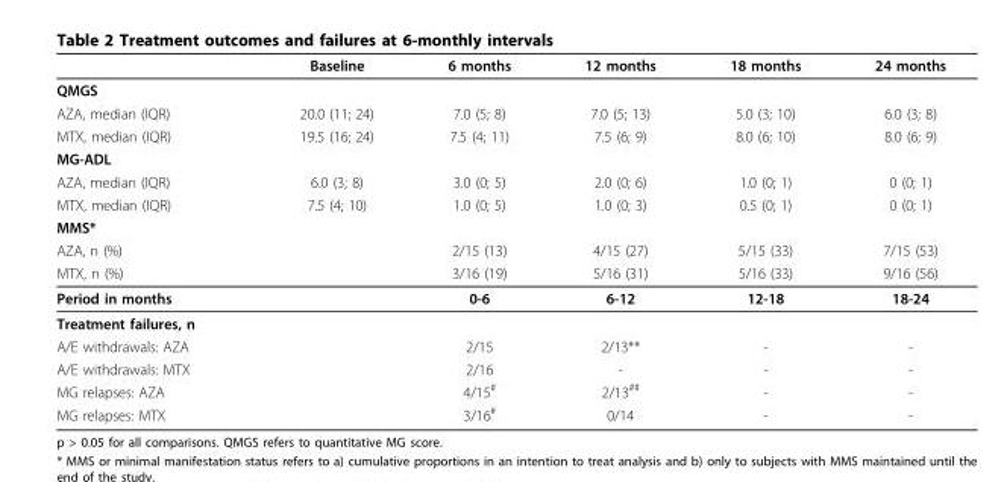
<table><thead><tr><td></td><td>Baseline</td><td>6 months</td><td>12 months</td><td>18 months</td><td>24 months</td></tr></thead><tbody><tr><td colspan="6">QMGS</td></tr><tr><td>AZA, median (IQR)</td><td>20.0 (11; 24)</td><td>7.0 (5; 8)</td><td>7.0 (5; 13)</td><td>5.0 (3; 10)</td><td>6.0 (3; 8)</td></tr><tr><td>MTX, median (IQR)</td><td>19.5 (16; 24)</td><td>7.5 (4; 11)</td><td>7.5 (6; 9)</td><td>8.0 (6; 10)</td><td>8.0 (6; 9)</td></tr><tr><td colspan="6">MG-ADL</td></tr><tr><td>AZA, median (IQR)</td><td>6.0 (3; 8)</td><td>3.0 (0; 5)</td><td>2.0 (0; 6)</td><td>1.0 (0; 1)</td><td>0 (0; 1)</td></tr><tr><td>MTX, median (IQR)</td><td>7.5 (4; 10)</td><td>1.0 (0; 5)</td><td>1.0 (0; 3)</td><td>0.5 (0; 1)</td><td>0 (0; 1)</td></tr><tr><td colspan="6">MMS*</td></tr><tr><td>AZA, n (%)</td><td></td><td>2/15 (13)</td><td>4/15 (27)</td><td>5/15 (33)</td><td>7/15 (53)</td></tr><tr><td>MTX, n (%)</td><td></td><td>3/16 (19)</td><td>5/16 (31)</td><td>5/16 (33)</td><td>9/16 (56)</td></tr><tr><td>Period in months</td><td></td><td>0-6</td><td>6-12</td><td>12-18</td><td>18-24</td></tr><tr><td colspan="6">Treatment failures, n</td></tr><tr><td>A/E withdrawals: AZA</td><td></td><td>2/15</td><td>2/13**</td><td>-</td><td>-</td></tr><tr><td>A/E withdrawals: MTX</td><td></td><td>2/16</td><td>-</td><td>-</td><td>-</td></tr><tr><td>MG relapses: AZA</td><td></td><td>4/15<sup>#</sup></td><td>2/13<sup>##</sup></td><td>-</td><td>-</td></tr><tr><td>MG relapses: MTX</td><td></td><td>3/16<sup>#</sup></td><td>0/14</td><td>-</td><td>-</td></tr></tbody></table>